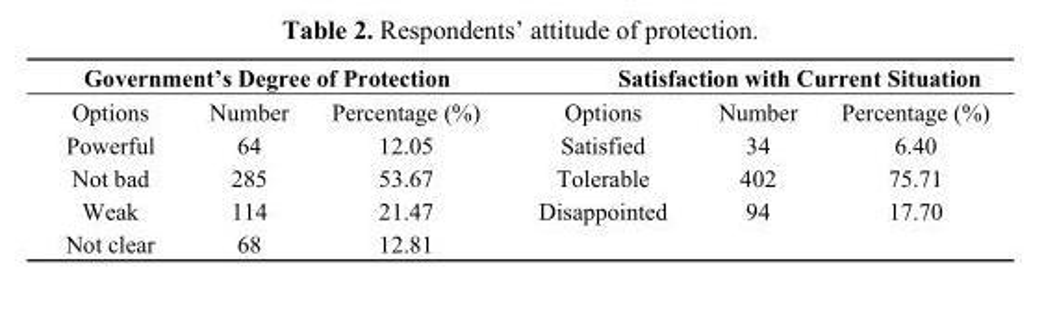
<table><thead><tr><td colspan="3">Government’s Degree of Protection</td><td colspan="3">Satisfaction with Current Situation</td></tr><tr><td>Options</td><td>Number</td><td>Percentage (%)</td><td>Options</td><td>Number</td><td>Percentage (%)</td></tr></thead><tbody><tr><td>Powerful</td><td>64</td><td>12.05</td><td>Satisfied</td><td>34</td><td>6.40</td></tr><tr><td>Not bad</td><td>285</td><td>53.67</td><td>Tolerable</td><td>402</td><td>75.71</td></tr><tr><td>Weak</td><td>114</td><td>21.47</td><td>Disappointed</td><td>94</td><td>17.70</td></tr><tr><td>Not clear</td><td>68</td><td>12.81</td><td></td><td></td><td></td></tr></tbody></table>